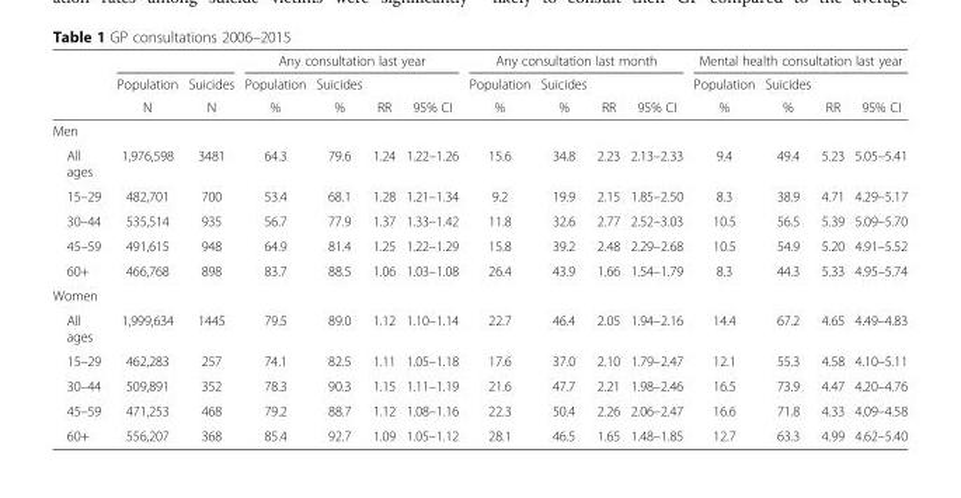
<table><thead><tr><td rowspan="3"></td><td rowspan="3">Population N</td><td rowspan="3">Suicides N</td><td colspan="4">Any consultation last year</td><td colspan="4">Any consultation last month</td><td colspan="4">Mental health consultation last year</td></tr><tr><td rowspan="2">Population %</td><td rowspan="2">Suicides %</td><td rowspan="2">RR</td><td rowspan="2">95% CI</td><td rowspan="2">Population %</td><td rowspan="2">Suicides %</td><td rowspan="2">RR</td><td rowspan="2">95% CI</td><td rowspan="2">Population %</td><td rowspan="2">Suicides %</td><td rowspan="2">RR</td><td rowspan="2">95% CI</td></tr><tr></tr></thead><tbody><tr><td colspan="15">Men</td></tr><tr><td>All ages</td><td>1,976,598</td><td>3481</td><td>64.3</td><td>79.6</td><td>1.24</td><td>1.22–1.26</td><td>15.6</td><td>34.8</td><td>2.23</td><td>2.13–2.33</td><td>9.4</td><td>49.4</td><td>5.23</td><td>5.05–5.41</td></tr><tr><td>15–29</td><td>482,701</td><td>700</td><td>53.4</td><td>68.1</td><td>1.28</td><td>1.21–1.34</td><td>9.2</td><td>19.9</td><td>2.15</td><td>1.85–2.50</td><td>8.3</td><td>38.9</td><td>4.71</td><td>4.29–5.17</td></tr><tr><td>30–44</td><td>535,514</td><td>935</td><td>56.7</td><td>77.9</td><td>1.37</td><td>1.33–1.42</td><td>11.8</td><td>32.6</td><td>2.77</td><td>2.52–3.03</td><td>10.5</td><td>56.5</td><td>5.39</td><td>5.09–5.70</td></tr><tr><td>45–59</td><td>491,615</td><td>948</td><td>64.9</td><td>81.4</td><td>1.25</td><td>1.22–1.29</td><td>15.8</td><td>39.2</td><td>2.48</td><td>2.29–2.68</td><td>10.5</td><td>54.9</td><td>5.20</td><td>4.91–5.52</td></tr><tr><td>60+</td><td>466,768</td><td>898</td><td>83.7</td><td>88.5</td><td>1.06</td><td>1.03–1.08</td><td>26.4</td><td>43.9</td><td>1.66</td><td>1.54–1.79</td><td>8.3</td><td>44.3</td><td>5.33</td><td>4.95–5.74</td></tr><tr><td colspan="15">Women</td></tr><tr><td>All ages</td><td>1,999,634</td><td>1445</td><td>79.5</td><td>89.0</td><td>1.12</td><td>1.10–1.14</td><td>22.7</td><td>46.4</td><td>2.05</td><td>1.94–2.16</td><td>14.4</td><td>67.2</td><td>4.65</td><td>4.49–4.83</td></tr><tr><td>15–29</td><td>462,283</td><td>257</td><td>74.1</td><td>82.5</td><td>1.11</td><td>1.05–1.18</td><td>17.6</td><td>37.0</td><td>2.10</td><td>1.79–2.47</td><td>12.1</td><td>55.3</td><td>4.58</td><td>4.10–5.11</td></tr><tr><td>30–44</td><td>509,891</td><td>352</td><td>78.3</td><td>90.3</td><td>1.15</td><td>1.11–1.19</td><td>21.6</td><td>47.7</td><td>2.21</td><td>1.98–2.46</td><td>16.5</td><td>73.9</td><td>4.47</td><td>4.20–4.76</td></tr><tr><td>45–59</td><td>471,253</td><td>468</td><td>79.2</td><td>88.7</td><td>1.12</td><td>1.08–1.16</td><td>22.3</td><td>50.4</td><td>2.26</td><td>2.06–2.47</td><td>16.6</td><td>71.8</td><td>4.33</td><td>4.09–4.58</td></tr><tr><td>60+</td><td>556,207</td><td>368</td><td>85.4</td><td>92.7</td><td>1.09</td><td>1.05–1.12</td><td>28.1</td><td>46.5</td><td>1.65</td><td>1.48–1.85</td><td>12.7</td><td>63.3</td><td>4.99</td><td>4.62–5.40</td></tr></tbody></table>